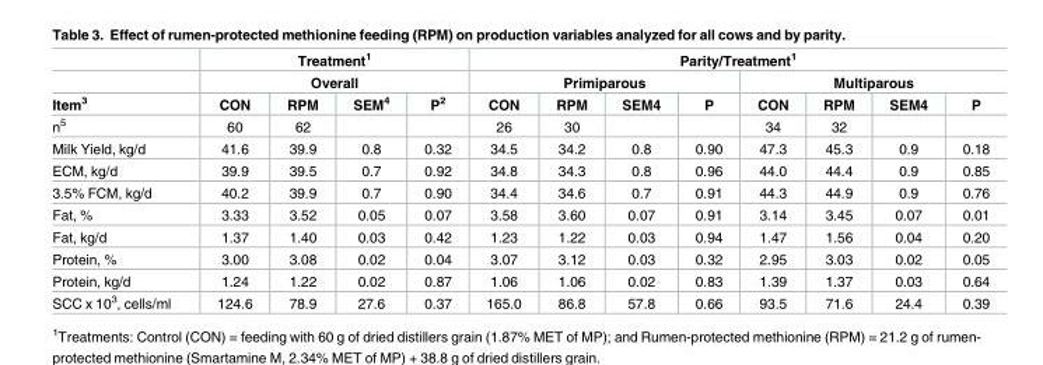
<table><thead><tr><td rowspan="3">Item<sup>3</sup></td><td rowspan="2" colspan="4">Treatment<sup>1</sup> Overall</td><td colspan="8">Parity/Treatment<sup>1</sup></td></tr><tr><td colspan="4">Primiparous</td><td colspan="4">Multiparous</td></tr><tr><td>CON</td><td>RPM</td><td>SEM<sup>4</sup></td><td>P<sup>2</sup></td><td>CON</td><td>RPM</td><td>SEM4</td><td>P</td><td>CON</td><td>RPM</td><td>SEM4</td><td>P</td></tr></thead><tbody><tr><td>n<sup>5</sup></td><td>60</td><td>62</td><td></td><td></td><td>26</td><td>30</td><td></td><td></td><td>34</td><td>32</td><td></td><td></td></tr><tr><td>Milk Yield, kg/d</td><td>41.6</td><td>39.9</td><td>0.8</td><td>0.32</td><td>34.5</td><td>34.2</td><td>0.8</td><td>0.90</td><td>47.3</td><td>45.3</td><td>0.9</td><td>0.18</td></tr><tr><td>ECM, kg/d</td><td>39.9</td><td>39.5</td><td>0.7</td><td>0.92</td><td>34.8</td><td>34.3</td><td>0.8</td><td>0.96</td><td>44.0</td><td>44.4</td><td>0.9</td><td>0.85</td></tr><tr><td>3.5% FCM, kg/d</td><td>40.2</td><td>39.9</td><td>0.7</td><td>0.90</td><td>34.4</td><td>34.6</td><td>0.7</td><td>0.91</td><td>44.3</td><td>44.9</td><td>0.9</td><td>0.76</td></tr><tr><td>Fat, %</td><td>3.33</td><td>3.52</td><td>0.05</td><td>0.07</td><td>3.58</td><td>3.60</td><td>0.07</td><td>0.91</td><td>3.14</td><td>3.45</td><td>0.07</td><td>0.01</td></tr><tr><td>Fat, kg/d</td><td>1.37</td><td>1.40</td><td>0.03</td><td>0.42</td><td>1.23</td><td>1.22</td><td>0.03</td><td>0.94</td><td>1.47</td><td>1.56</td><td>0.04</td><td>0.20</td></tr><tr><td>Protein, %</td><td>3.00</td><td>3.08</td><td>0.02</td><td>0.04</td><td>3.07</td><td>3.12</td><td>0.03</td><td>0.32</td><td>2.95</td><td>3.03</td><td>0.02</td><td>0.05</td></tr><tr><td>Protein, kg/d</td><td>1.24</td><td>1.22</td><td>0.02</td><td>0.87</td><td>1.06</td><td>1.06</td><td>0.02</td><td>0.83</td><td>1.39</td><td>1.37</td><td>0.03</td><td>0.64</td></tr><tr><td>SCC x 10<sup>3</sup>, cells/ml</td><td>124.6</td><td>78.9</td><td>27.6</td><td>0.37</td><td>165.0</td><td>86.8</td><td>57.8</td><td>0.66</td><td>93.5</td><td>71.6</td><td>24.4</td><td>0.39</td></tr></tbody></table>